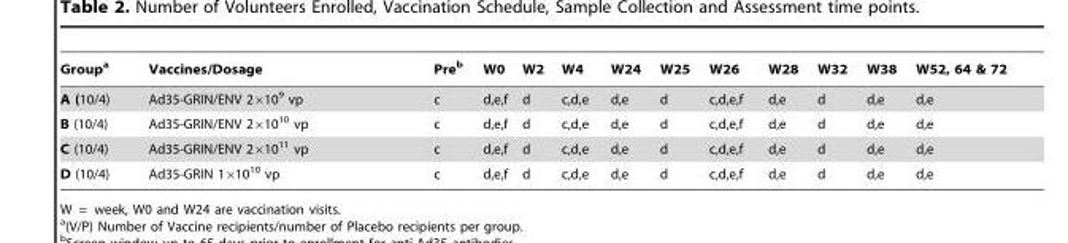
<table><thead><tr><td>Group<sup>a</sup></td><td>Vaccines/Dosage</td><td>Pre<sup>b</sup></td><td>W0</td><td>W2</td><td>W4</td><td>W24</td><td>W25</td><td>W26</td><td>W28</td><td>W32</td><td>W38</td><td>W52, 64 &amp; 72</td></tr></thead><tbody><tr><td>A (10/4)</td><td>Ad35-GRIN/ENV 2×10<sup>9</sup> vp</td><td>c</td><td>d,e,f</td><td>d</td><td>c,d,e</td><td>d,e</td><td>d</td><td>c,d,e,f</td><td>d,e</td><td>d</td><td>d,e</td><td>d,e</td></tr><tr><td>B (10/4)</td><td>Ad35-GRIN/ENV 2×10<sup>10</sup> vp</td><td>c</td><td>d,e,f</td><td>d</td><td>c,d,e</td><td>d,e</td><td>d</td><td>c,d,e,f</td><td>d,e</td><td>d</td><td>d,e</td><td>d,e</td></tr><tr><td>C (10/4)</td><td>Ad35-GRIN/ENV 2×10<sup>11</sup> vp</td><td>c</td><td>d,e,f</td><td>d</td><td>c,d,e</td><td>d,e</td><td>d</td><td>c,d,e,f</td><td>d,e</td><td>d</td><td>d,e</td><td>d,e</td></tr><tr><td>D (10/4)</td><td>Ad35-GRIN 1×10<sup>10</sup> vp</td><td>c</td><td>d,e,f</td><td>d</td><td>c,d,e</td><td>d,e</td><td>d</td><td>c,d,e,f</td><td>d,e</td><td>d</td><td>d,e</td><td>d,e</td></tr></tbody></table>